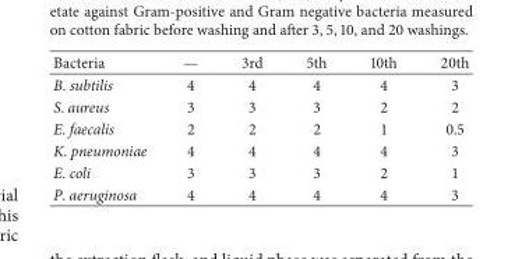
<table><thead><tr><td>Bacteria</td><td>—</td><td>3rd</td><td>5th</td><td>10th</td><td>20th</td></tr></thead><tbody><tr><td>B. subtilis</td><td>4</td><td>4</td><td>4</td><td>4</td><td>3</td></tr><tr><td>S. aureus</td><td>3</td><td>3</td><td>3</td><td>2</td><td>2</td></tr><tr><td>E. faecalis</td><td>2</td><td>2</td><td>2</td><td>1</td><td>0.5</td></tr><tr><td>K. pneumoniae</td><td>4</td><td>4</td><td>4</td><td>4</td><td>3</td></tr><tr><td>E. coli</td><td>3</td><td>3</td><td>3</td><td>2</td><td>1</td></tr><tr><td>P. aeruginosa</td><td>4</td><td>4</td><td>4</td><td>4</td><td>3</td></tr></tbody></table>